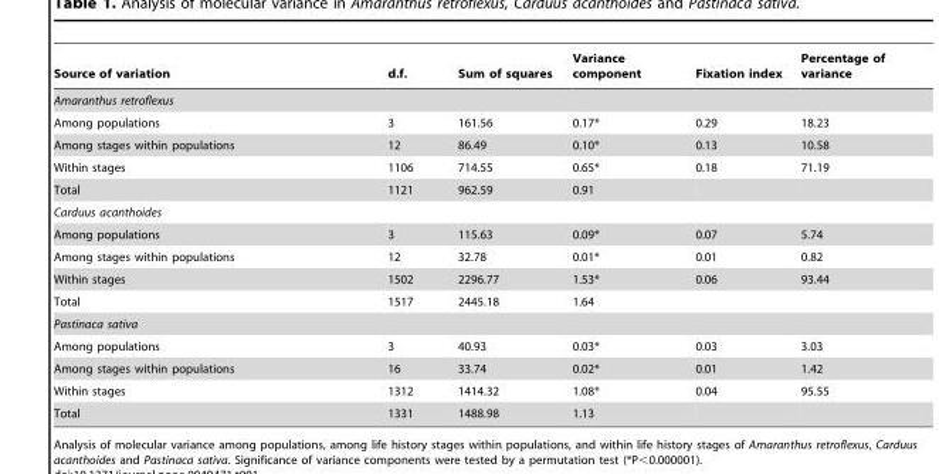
<table><thead><tr><td>Source of variation</td><td>d.f.</td><td>Sum of squares</td><td>Variance component</td><td>Fixation index</td><td>Percentage of variance</td></tr></thead><tbody><tr><td colspan="6">Amaranthus retroflexus</td></tr><tr><td>Among populations</td><td>3</td><td>161.56</td><td>0.17*</td><td>0.29</td><td>18.23</td></tr><tr><td>Among stages within populations</td><td>12</td><td>86.49</td><td>0.10*</td><td>0.13</td><td>10.58</td></tr><tr><td>Within stages</td><td>1106</td><td>714.55</td><td>0.65*</td><td>0.18</td><td>71.19</td></tr><tr><td>Total</td><td>1121</td><td>962.59</td><td>0.91</td><td></td><td></td></tr><tr><td colspan="6">Carduus acanthoides</td></tr><tr><td>Among populations</td><td>3</td><td>115.63</td><td>0.09*</td><td>0.07</td><td>5.74</td></tr><tr><td>Among stages within populations</td><td>12</td><td>32.78</td><td>0.01*</td><td>0.01</td><td>0.82</td></tr><tr><td>Within stages</td><td>1502</td><td>2296.77</td><td>1.53*</td><td>0.06</td><td>93.44</td></tr><tr><td>Total</td><td>1517</td><td>2445.18</td><td>1.64</td><td></td><td></td></tr><tr><td colspan="6">Pastinaca sativa</td></tr><tr><td>Among populations</td><td>3</td><td>40.93</td><td>0.03*</td><td>0.03</td><td>3.03</td></tr><tr><td>Among stages within populations</td><td>16</td><td>33.74</td><td>0.02*</td><td>0.01</td><td>1.42</td></tr><tr><td>Within stages</td><td>1312</td><td>1414.32</td><td>1.08*</td><td>0.04</td><td>95.55</td></tr><tr><td>Total</td><td>1331</td><td>1488.98</td><td>1.13</td><td></td><td></td></tr></tbody></table>